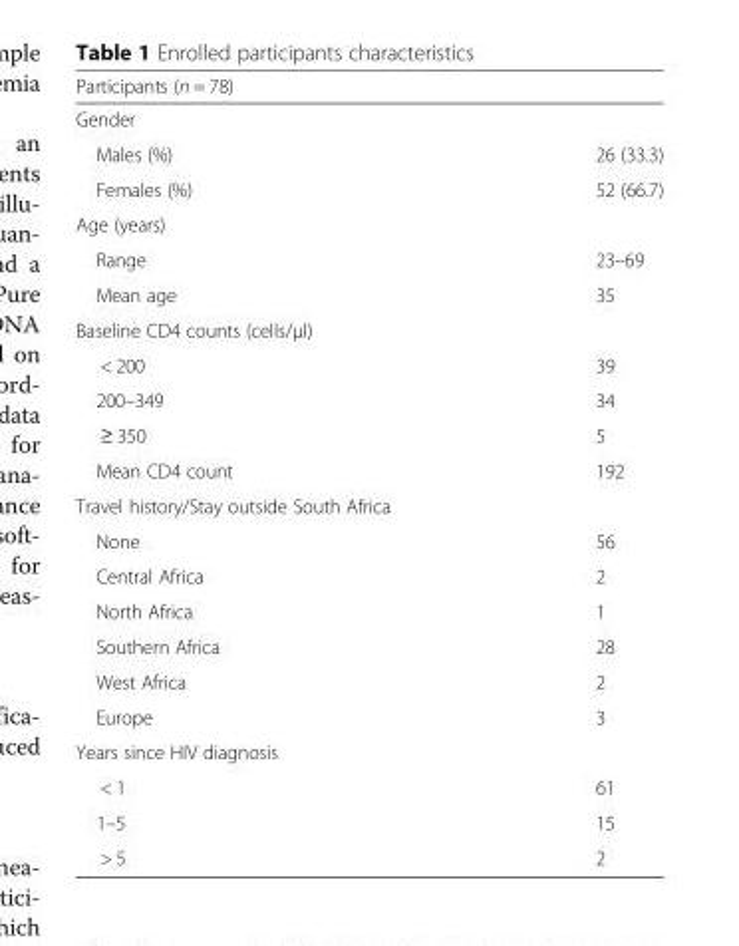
<table><thead><tr><td rowspan="2" colspan="2">Participants (n = 78) Gender</td></tr><tr></tr><tr><td>Males (%)</td><td>26 (33.3)</td></tr></thead><tbody><tr><td>Females (%)</td><td>52 (66.7)</td></tr><tr><td colspan="2">Age (years)</td></tr><tr><td>Range</td><td>23–69</td></tr><tr><td>Mean age</td><td>35</td></tr><tr><td colspan="2">Baseline CD4 counts (cells/μl)</td></tr><tr><td>&lt; 200</td><td>39</td></tr><tr><td>200–349</td><td>34</td></tr><tr><td>≥ 350</td><td>5</td></tr><tr><td>Mean CD4 count</td><td>192</td></tr><tr><td colspan="2">Travel history/Stay outside South Africa</td></tr><tr><td>None</td><td>56</td></tr><tr><td>Central Africa</td><td>2</td></tr><tr><td>North Africa</td><td>1</td></tr><tr><td>Southern Africa</td><td>28</td></tr><tr><td>West Africa</td><td>2</td></tr><tr><td>Europe</td><td>3</td></tr><tr><td colspan="2">Years since HIV diagnosis</td></tr><tr><td>&lt; 1</td><td>61</td></tr><tr><td>1–5</td><td>15</td></tr><tr><td>&gt; 5</td><td>2</td></tr></tbody></table>